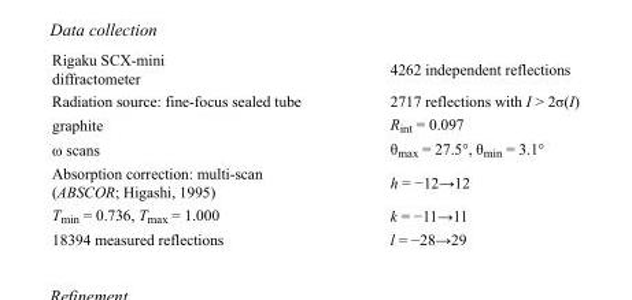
<table><tbody><tr><td>Rigaku SCX-mini diffractometer</td><td>4262 independent reflections</td></tr><tr><td>Radiation source: fine-focus sealed tube</td><td>2717 reflections with I &gt; 2σ(I)</td></tr><tr><td>graphite</td><td>R<sub>int</sub> = 0.097</td></tr><tr><td>ω scans</td><td>θ<sub>max</sub> = 27.5°, θ<sub>min</sub> = 3.1°</td></tr><tr><td>Absorption correction: multi-scan (ABSCOR; Higashi, 1995)</td><td>h = −12→12</td></tr><tr><td>T<sub>min</sub> = 0.736, T<sub>max</sub> = 1.000</td><td>k = −11→11</td></tr><tr><td>18394 measured reflections</td><td>l = −28→29</td></tr></tbody></table>